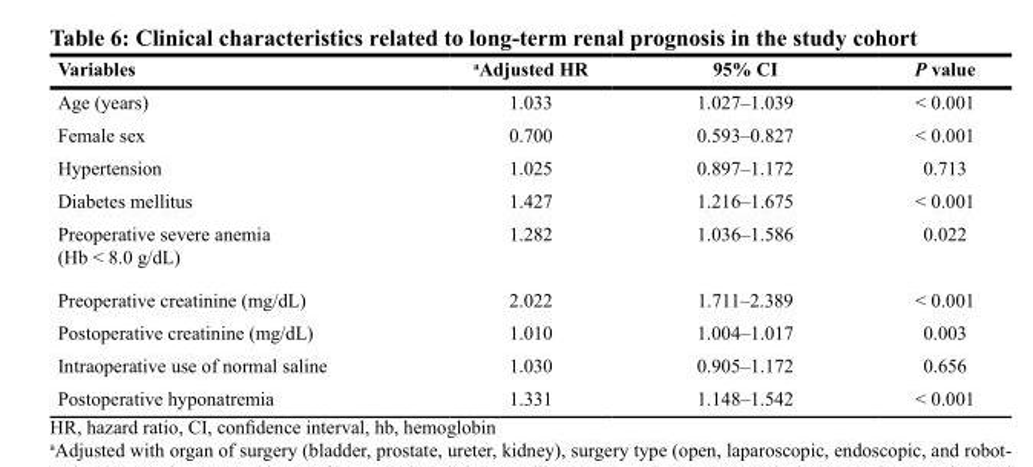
<table><thead><tr><td>Variables</td><td><sup>a</sup>Adjusted HR</td><td>95% CI</td><td>P value</td></tr></thead><tbody><tr><td>Age (years)</td><td>1.033</td><td>1.027–1.039</td><td>&lt; 0.001</td></tr><tr><td>Female sex</td><td>0.700</td><td>0.593–0.827</td><td>&lt; 0.001</td></tr><tr><td>Hypertension</td><td>1.025</td><td>0.897–1.172</td><td>0.713</td></tr><tr><td>Diabetes mellitus</td><td>1.427</td><td>1.216–1.675</td><td>&lt; 0.001</td></tr><tr><td>Preoperative severe anemia (Hb &lt; 8.0 g/dL)</td><td>1.282</td><td>1.036–1.586</td><td>0.022</td></tr><tr><td>Preoperative creatinine (mg/dL)</td><td>2.022</td><td>1.711–2.389</td><td>&lt; 0.001</td></tr><tr><td>Postoperative creatinine (mg/dL)</td><td>1.010</td><td>1.004–1.017</td><td>0.003</td></tr><tr><td>Intraoperative use of normal saline</td><td>1.030</td><td>0.905–1.172</td><td>0.656</td></tr><tr><td>Postoperative hyponatremia</td><td>1.331</td><td>1.148–1.542</td><td>&lt; 0.001</td></tr></tbody></table>